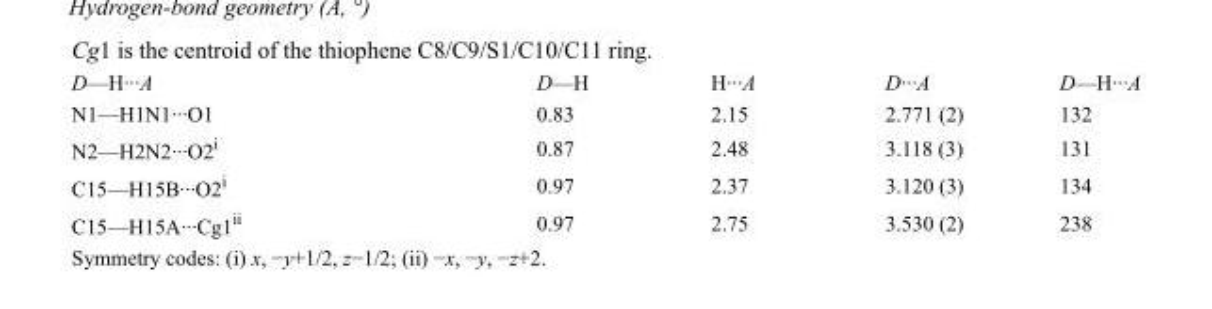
<table><tbody><tr><td>D—H···A</td><td>D—H</td><td>H···A</td><td>D···A</td><td>D—H···A</td></tr><tr><td>N1—H1N1···O1</td><td>0.83</td><td>2.15</td><td>2.771 (2)</td><td>132</td></tr><tr><td>N2—H2N2···O2<sup>i</sup></td><td>0.87</td><td>2.48</td><td>3.118 (3)</td><td>131</td></tr><tr><td>C15—H15B···O2<sup>i</sup></td><td>0.97</td><td>2.37</td><td>3.120 (3)</td><td>134</td></tr><tr><td>C15—H15A···Cg1<sup>ii</sup></td><td>0.97</td><td>2.75</td><td>3.530 (2)</td><td>238</td></tr></tbody></table>